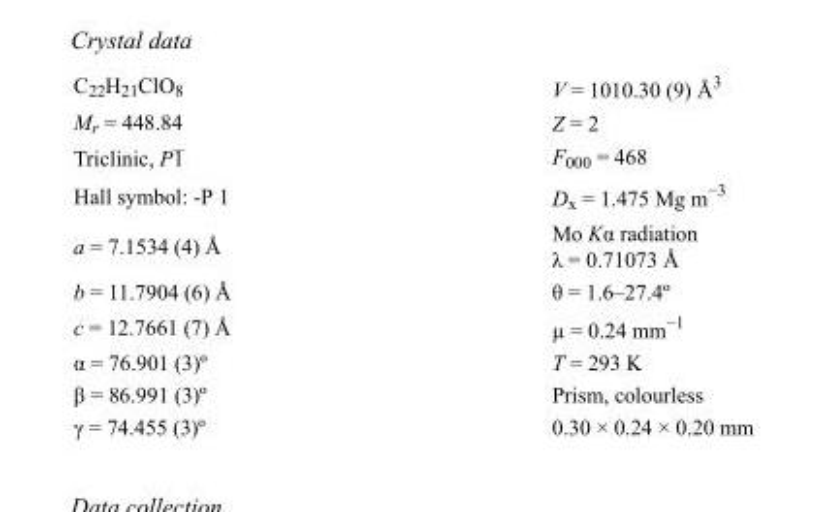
<table><tbody><tr><td>C<sub>22</sub>H<sub>21</sub>ClO<sub>8</sub></td><td>V = 1010.30 (9) Å<sup>3</sup></td></tr><tr><td>M<sub>r</sub> = 448.84</td><td>Z = 2</td></tr><tr><td>Triclinic, P1</td><td>F000 = 468</td></tr><tr><td>Hall symbol: -P 1</td><td>D<sub>x</sub> = 1.475 Mg m<sup>−3</sup></td></tr><tr><td>a = 7.1534 (4) Å</td><td>Mo Kα radiation λ = 0.71073 Å</td></tr><tr><td>b = 11.7904 (6) Å</td><td>θ = 1.6–27.4º</td></tr><tr><td>c = 12.7661 (7) Å</td><td>µ = 0.24 mm<sup>−1</sup></td></tr><tr><td>α = 76.901 (3)º</td><td>T = 293 K</td></tr><tr><td>β = 86.991 (3)º</td><td>Prism, colourless</td></tr><tr><td>γ = 74.455 (3)º</td><td>0.30 × 0.24 × 0.20 mm</td></tr></tbody></table>